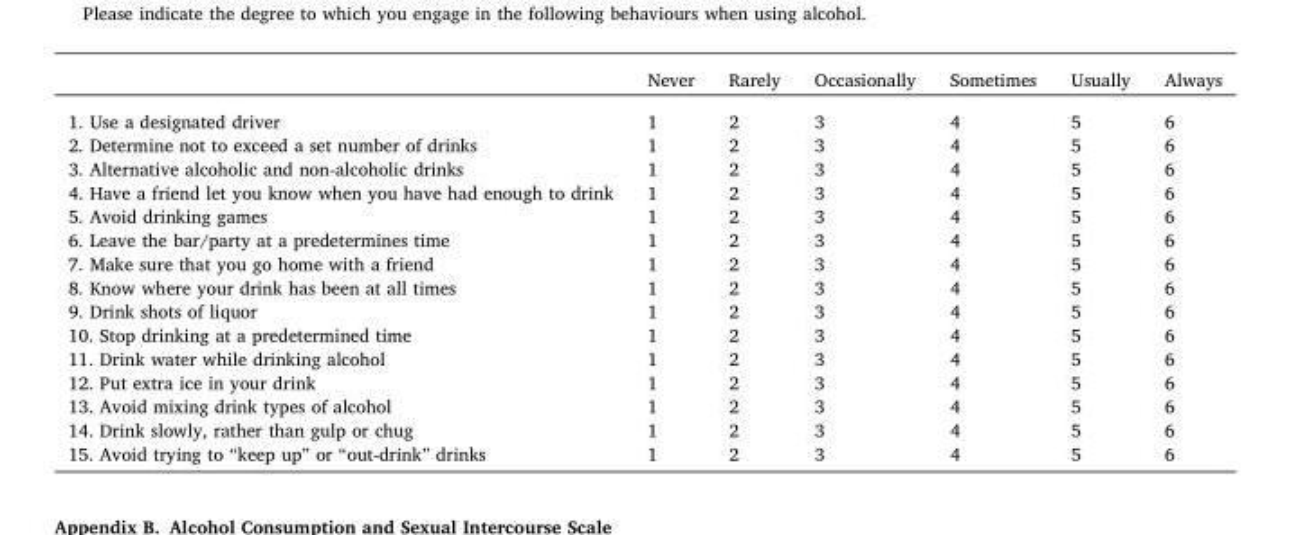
<table><thead><tr><td></td><td>Never</td><td>Rarely</td><td>Occasionally</td><td>Sometimes</td><td>Usually</td><td>Always</td></tr></thead><tbody><tr><td>1. Use a designated driver</td><td>1</td><td>2</td><td>3</td><td>4</td><td>5</td><td>6</td></tr><tr><td>2. Determine not to exceed a set number of drinks</td><td>1</td><td>2</td><td>3</td><td>4</td><td>5</td><td>6</td></tr><tr><td>3. Alternative alcoholic and non-alcoholic drinks</td><td>1</td><td>2</td><td>3</td><td>4</td><td>5</td><td>6</td></tr><tr><td>4. Have a friend let you know when you have had enough to drink</td><td>1</td><td>2</td><td>3</td><td>4</td><td>5</td><td>6</td></tr><tr><td>5. Avoid drinking games</td><td>1</td><td>2</td><td>3</td><td>4</td><td>5</td><td>6</td></tr><tr><td>6. Leave the bar/party at a predetermines time</td><td>1</td><td>2</td><td>3</td><td>4</td><td>5</td><td>6</td></tr><tr><td>7. Make sure that you go home with a friend</td><td>1</td><td>2</td><td>3</td><td>4</td><td>5</td><td>6</td></tr><tr><td>8. Know where your drink has been at all times</td><td>1</td><td>2</td><td>3</td><td>4</td><td>5</td><td>6</td></tr><tr><td>9. Drink shots of liquor</td><td>1</td><td>2</td><td>3</td><td>4</td><td>5</td><td>6</td></tr><tr><td>10. Stop drinking at a predetermined time</td><td>1</td><td>2</td><td>3</td><td>4</td><td>5</td><td>6</td></tr><tr><td>11. Drink water while drinking alcohol</td><td>1</td><td>2</td><td>3</td><td>4</td><td>5</td><td>6</td></tr><tr><td>12. Put extra ice in your drink</td><td>1</td><td>2</td><td>3</td><td>4</td><td>5</td><td>6</td></tr><tr><td>13. Avoid mixing drink types of alcohol</td><td>1</td><td>2</td><td>3</td><td>4</td><td>5</td><td>6</td></tr><tr><td>14. Drink slowly, rather than gulp or chug</td><td>1</td><td>2</td><td>3</td><td>4</td><td>5</td><td>6</td></tr><tr><td>15. Avoid trying to “keep up” or “out-drink” drinks</td><td>1</td><td>2</td><td>3</td><td>4</td><td>5</td><td>6</td></tr></tbody></table>